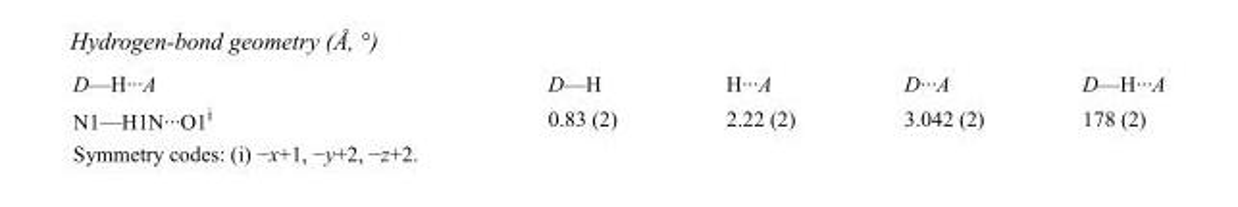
<table><tbody><tr><td>D—H···A</td><td>D—H</td><td>H···A</td><td>D···A</td><td>D—H···A</td></tr><tr><td>N1—H1N···O1<sup>i</sup></td><td>0.83 (2)</td><td>2.22 (2)</td><td>3.042 (2)</td><td>178 (2)</td></tr></tbody></table>